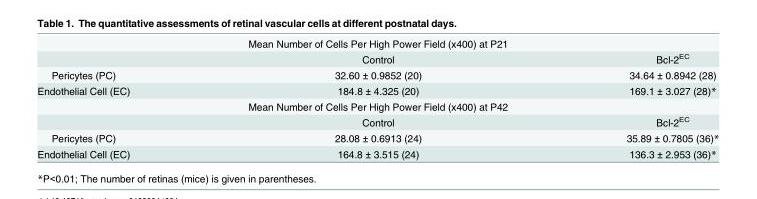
<table><tbody><tr><td colspan="3">Mean Number of Cells Per High Power Field (x400) at P21</td></tr><tr><td></td><td>Control</td><td>Bcl-2<sup>EC</sup></td></tr><tr><td>Pericytes (PC)</td><td>32.60 ± 0.9852 (20)</td><td>34.64 ± 0.8942 (28)</td></tr><tr><td>Endothelial Cell (EC)</td><td>184.8 ± 4.325 (20)</td><td>169.1 ± 3.027 (28)*</td></tr><tr><td colspan="3">Mean Number of Cells Per High Power Field (x400) at P42</td></tr><tr><td></td><td>Control</td><td>Bcl-2<sup>EC</sup></td></tr><tr><td>Pericytes (PC)</td><td>28.08 ± 0.6913 (24)</td><td>35.89 ± 0.7805 (36)*</td></tr><tr><td>Endothelial Cell (EC)</td><td>164.8 ± 3.515 (24)</td><td>136.3 ± 2.953 (36)*</td></tr></tbody></table>